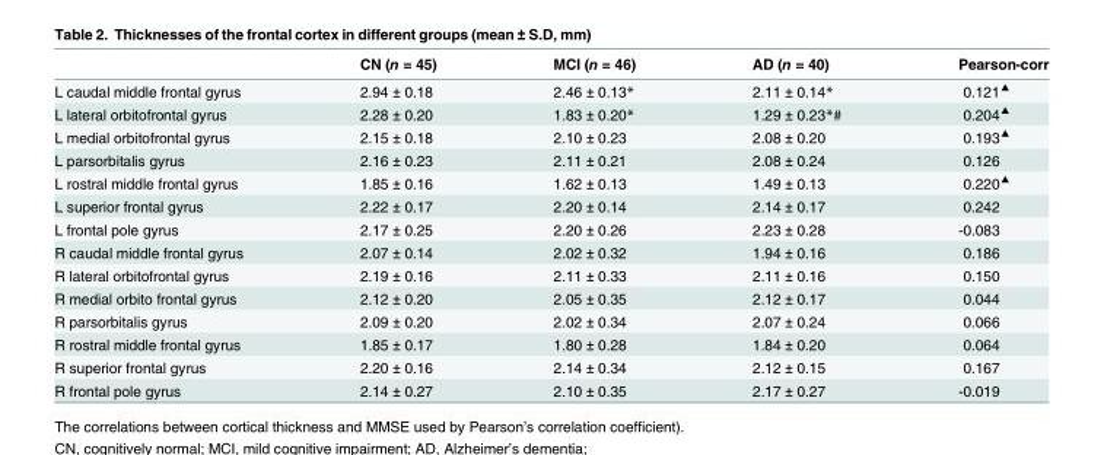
<table><thead><tr><td></td><td>CN (n = 45)</td><td>MCI (n = 46)</td><td>AD (n = 40)</td><td>Pearson-corr</td></tr></thead><tbody><tr><td>L caudal middle frontal gyrus</td><td>2.94 ± 0.18</td><td>2.46 ± 0.13*</td><td>2.11 ± 0.14*</td><td>0.121<sup>▲</sup></td></tr><tr><td>L lateral orbitofrontal gyrus</td><td>2.28 ± 0.20</td><td>1.83 ± 0.20*</td><td>1.29 ± 0.23*#</td><td>0.204<sup>▲</sup></td></tr><tr><td>L medial orbitofrontal gyrus</td><td>2.15 ± 0.18</td><td>2.10 ± 0.23</td><td>2.08 ± 0.20</td><td>0.193<sup>▲</sup></td></tr><tr><td>L parsorbitalis gyrus</td><td>2.16 ± 0.23</td><td>2.11 ± 0.21</td><td>2.08 ± 0.24</td><td>0.126</td></tr><tr><td>L rostral middle frontal gyrus</td><td>1.85 ± 0.16</td><td>1.62 ± 0.13</td><td>1.49 ± 0.13</td><td>0.220<sup>▲</sup></td></tr><tr><td>L superior frontal gyrus</td><td>2.22 ± 0.17</td><td>2.20 ± 0.14</td><td>2.14 ± 0.17</td><td>0.242</td></tr><tr><td>L frontal pole gyrus</td><td>2.17 ± 0.25</td><td>2.20 ± 0.26</td><td>2.23 ± 0.28</td><td>-0.083</td></tr><tr><td>R caudal middle frontal gyrus</td><td>2.07 ± 0.14</td><td>2.02 ± 0.32</td><td>1.94 ± 0.16</td><td>0.186</td></tr><tr><td>R lateral orbitofrontal gyrus</td><td>2.19 ± 0.16</td><td>2.11 ± 0.33</td><td>2.11 ± 0.16</td><td>0.150</td></tr><tr><td>R medial orbito frontal gyrus</td><td>2.12 ± 0.20</td><td>2.05 ± 0.35</td><td>2.12 ± 0.17</td><td>0.044</td></tr><tr><td>R parsorbitalis gyrus</td><td>2.09 ± 0.20</td><td>2.02 ± 0.34</td><td>2.07 ± 0.24</td><td>0.066</td></tr><tr><td>R rostral middle frontal gyrus</td><td>1.85 ± 0.17</td><td>1.80 ± 0.28</td><td>1.84 ± 0.20</td><td>0.064</td></tr><tr><td>R superior frontal gyrus</td><td>2.20 ± 0.16</td><td>2.14 ± 0.34</td><td>2.12 ± 0.15</td><td>0.167</td></tr><tr><td>R frontal pole gyrus</td><td>2.14 ± 0.27</td><td>2.10 ± 0.35</td><td>2.17 ± 0.27</td><td>-0.019</td></tr></tbody></table>